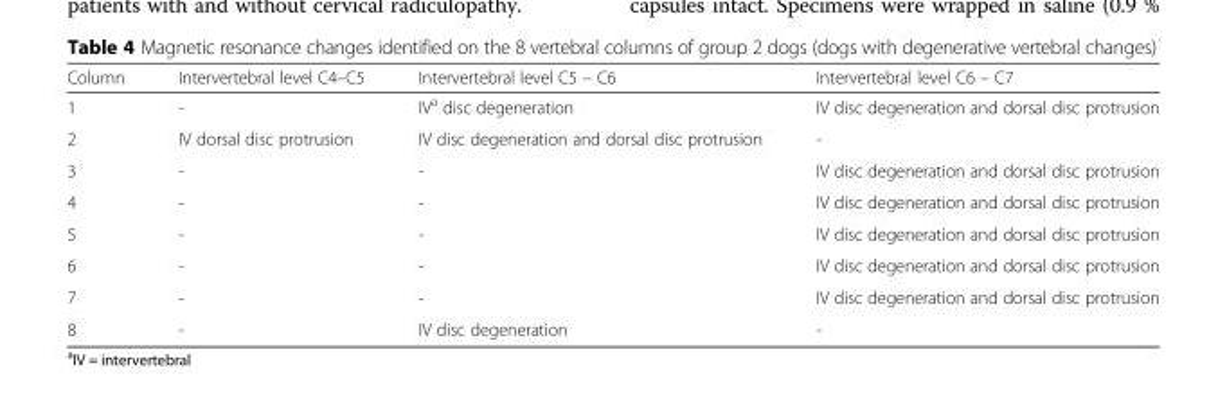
<table><thead><tr><td>Column</td><td>Intervertebral level C4–C5</td><td>Intervertebral level C5 – C6</td><td>Intervertebral level C6 – C7</td></tr></thead><tbody><tr><td>1</td><td>-</td><td>IV<sup>a</sup> disc degeneration</td><td>IV disc degeneration and dorsal disc protrusion</td></tr><tr><td>2</td><td>IV dorsal disc protrusion</td><td>IV disc degeneration and dorsal disc protrusion</td><td>-</td></tr><tr><td>3</td><td>-</td><td>-</td><td>IV disc degeneration and dorsal disc protrusion</td></tr><tr><td>4</td><td>-</td><td>-</td><td>IV disc degeneration and dorsal disc protrusion</td></tr><tr><td>5</td><td>-</td><td>-</td><td>IV disc degeneration and dorsal disc protrusion</td></tr><tr><td>6</td><td>-</td><td>-</td><td>IV disc degeneration and dorsal disc protrusion</td></tr><tr><td>7</td><td>-</td><td>-</td><td>IV disc degeneration and dorsal disc protrusion</td></tr><tr><td>8</td><td>-</td><td>IV disc degeneration</td><td>-</td></tr></tbody></table>